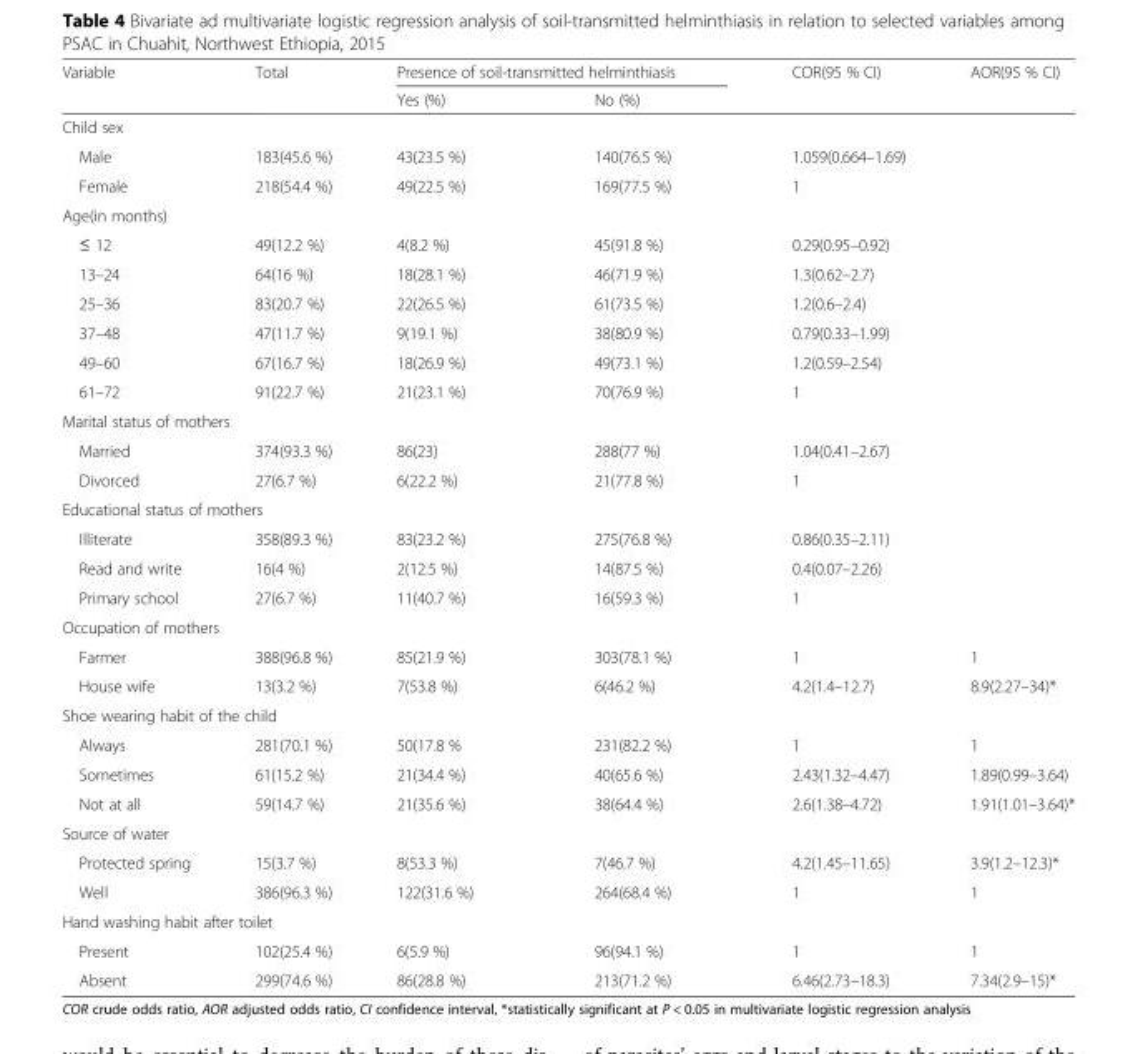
<table><thead><tr><td rowspan="2">Variable</td><td rowspan="2">Total</td><td colspan="2">Presence of soil-transmitted helminthiasis</td><td rowspan="2">COR(95 % CI)</td><td rowspan="2">AOR(95 % CI)</td></tr><tr><td>Yes (%)</td><td>No (%)</td></tr></thead><tbody><tr><td colspan="6">Child sex</td></tr><tr><td>Male</td><td>183(45.6 %)</td><td>43(23.5 %)</td><td>140(76.5 %)</td><td>1.059(0.664–1.69)</td><td></td></tr><tr><td>Female</td><td>218(54.4 %)</td><td>49(22.5 %)</td><td>169(77.5 %)</td><td>1</td><td></td></tr><tr><td colspan="6">Age(in months)</td></tr><tr><td>≤ 12</td><td>49(12.2 %)</td><td>4(8.2 %)</td><td>45(91.8 %)</td><td>0.29(0.95–0.92)</td><td></td></tr><tr><td>13–24</td><td>64(16 %)</td><td>18(28.1 %)</td><td>46(71.9 %)</td><td>1.3(0.62–2.7)</td><td></td></tr><tr><td>25–36</td><td>83(20.7 %)</td><td>22(26.5 %)</td><td>61(73.5 %)</td><td>1.2(0.6–2.4)</td><td></td></tr><tr><td>37–48</td><td>47(11.7 %)</td><td>9(19.1 %)</td><td>38(80.9 %)</td><td>0.79(0.33–1.99)</td><td></td></tr><tr><td>49–60</td><td>67(16.7 %)</td><td>18(26.9 %)</td><td>49(73.1 %)</td><td>1.2(0.59–2.54)</td><td></td></tr><tr><td>61–72</td><td>91(22.7 %)</td><td>21(23.1 %)</td><td>70(76.9 %)</td><td>1</td><td></td></tr><tr><td colspan="6">Marital status of mothers</td></tr><tr><td>Married</td><td>374(93.3 %)</td><td>86(23)</td><td>288(77 %)</td><td>1.04(0.41–2.67)</td><td></td></tr><tr><td>Divorced</td><td>27(6.7 %)</td><td>6(22.2 %)</td><td>21(77.8 %)</td><td>1</td><td></td></tr><tr><td colspan="6">Educational status of mothers</td></tr><tr><td>Illiterate</td><td>358(89.3 %)</td><td>83(23.2 %)</td><td>275(76.8 %)</td><td>0.86(0.35–2.11)</td><td></td></tr><tr><td>Read and write</td><td>16(4 %)</td><td>2(12.5 %)</td><td>14(87.5 %)</td><td>0.4(0.07–2.26)</td><td></td></tr><tr><td>Primary school</td><td>27(6.7 %)</td><td>11(40.7 %)</td><td>16(59.3 %)</td><td>1</td><td></td></tr><tr><td colspan="6">Occupation of mothers</td></tr><tr><td>Farmer</td><td>388(96.8 %)</td><td>85(21.9 %)</td><td>303(78.1 %)</td><td>1</td><td>1</td></tr><tr><td>House wife</td><td>13(3.2 %)</td><td>7(53.8 %)</td><td>6(46.2 %)</td><td>4.2(1.4–12.7)</td><td>8.9(2.27–34)*</td></tr><tr><td colspan="6">Shoe wearing habit of the child</td></tr><tr><td>Always</td><td>281(70.1 %)</td><td>50(17.8 %</td><td>231(82.2 %)</td><td>1</td><td>1</td></tr><tr><td>Sometimes</td><td>61(15.2 %)</td><td>21(34.4 %)</td><td>40(65.6 %)</td><td>2.43(1.32–4.47)</td><td>1.89(0.99–3.64)</td></tr><tr><td>Not at all</td><td>59(14.7 %)</td><td>21(35.6 %)</td><td>38(64.4 %)</td><td>2.6(1.38–4.72)</td><td>1.91(1.01–3.64)*</td></tr><tr><td colspan="6">Source of water</td></tr><tr><td>Protected spring</td><td>15(3.7 %)</td><td>8(53.3 %)</td><td>7(46.7 %)</td><td>4.2(1.45–11.65)</td><td>3.9(1.2–12.3)*</td></tr><tr><td>Well</td><td>386(96.3 %)</td><td>122(31.6 %)</td><td>264(68.4 %)</td><td>1</td><td>1</td></tr><tr><td colspan="6">Hand washing habit after toilet</td></tr><tr><td>Present</td><td>102(25.4 %)</td><td>6(5.9 %)</td><td>96(94.1 %)</td><td>1</td><td>1</td></tr><tr><td>Absent</td><td>299(74.6 %)</td><td>86(28.8 %)</td><td>213(71.2 %)</td><td>6.46(2.73–18.3)</td><td>7.34(2.9–15)*</td></tr></tbody></table>